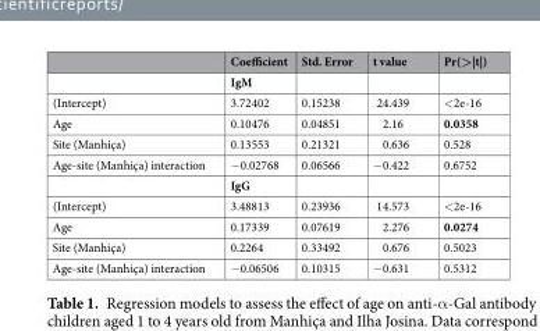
<table><thead><tr><td></td><td>Coefficient</td><td>Std. Error</td><td>t value</td><td>Pr(&gt;|t|)</td></tr></thead><tbody><tr><td></td><td>IgM</td><td></td><td></td><td></td></tr><tr><td>(Intercept)</td><td>3.72402</td><td>0.15238</td><td>24.439</td><td>&lt;2e-16</td></tr><tr><td>Age</td><td>0.10476</td><td>0.04851</td><td>2.16</td><td>0.0358</td></tr><tr><td>Site (Manhiça)</td><td>0.13553</td><td>0.21321</td><td>0.636</td><td>0.528</td></tr><tr><td rowspan="2">Age-site (Manhiça) interaction</td><td>−0.02768</td><td>0.06566</td><td>−0.422</td><td>0.6752</td></tr><tr><td>IgG</td><td></td><td></td><td></td></tr><tr><td>(Intercept)</td><td>3.48813</td><td>0.23936</td><td>14.573</td><td>&lt;2e-16</td></tr><tr><td>Age</td><td>0.17339</td><td>0.07619</td><td>2.276</td><td>0.0274</td></tr><tr><td>Site (Manhiça)</td><td>0.2264</td><td>0.33492</td><td>0.676</td><td>0.5023</td></tr><tr><td>Age-site (Manhiça) interaction</td><td>−0.06506</td><td>0.10315</td><td>−0.631</td><td>0.5312</td></tr></tbody></table>